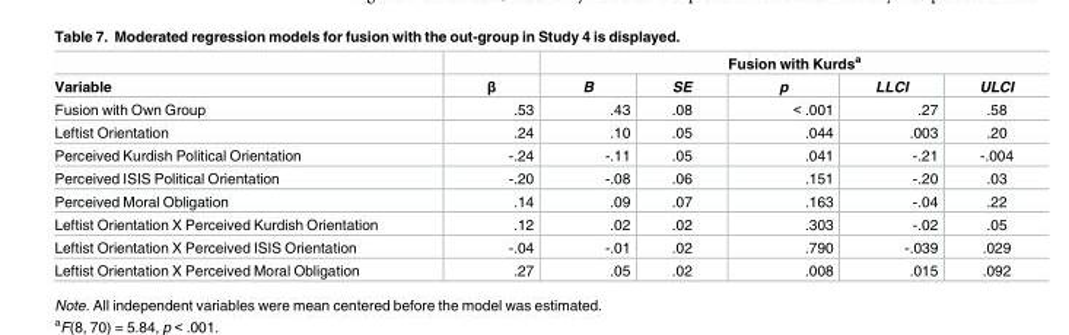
<table><thead><tr><td rowspan="2">Variable</td><td rowspan="2">β</td><td colspan="5">Fusion with Kurds<sup>a</sup></td></tr><tr><td>B</td><td>SE</td><td>p</td><td>LLCI</td><td>ULCI</td></tr></thead><tbody><tr><td>Fusion with Own Group</td><td>.53</td><td>.43</td><td>.08</td><td>&lt; .001</td><td>.27</td><td>.58</td></tr><tr><td>Leftist Orientation</td><td>.24</td><td>.10</td><td>.05</td><td>.044</td><td>.003</td><td>.20</td></tr><tr><td>Perceived Kurdish Political Orientation</td><td>-.24</td><td>-.11</td><td>.05</td><td>.041</td><td>-.21</td><td>-.004</td></tr><tr><td>Perceived ISIS Political Orientation</td><td>-.20</td><td>-.08</td><td>.06</td><td>.151</td><td>-.20</td><td>.03</td></tr><tr><td>Perceived Moral Obligation</td><td>.14</td><td>.09</td><td>.07</td><td>.163</td><td>-.04</td><td>.22</td></tr><tr><td>Leftist Orientation X Perceived Kurdish Orientation</td><td>.12</td><td>.02</td><td>.02</td><td>.303</td><td>-.02</td><td>.05</td></tr><tr><td>Leftist Orientation X Perceived ISIS Orientation</td><td>-.04</td><td>-.01</td><td>.02</td><td>.790</td><td>-.039</td><td>.029</td></tr><tr><td>Leftist Orientation X Perceived Moral Obligation</td><td>.27</td><td>.05</td><td>.02</td><td>.008</td><td>.015</td><td>.092</td></tr></tbody></table>